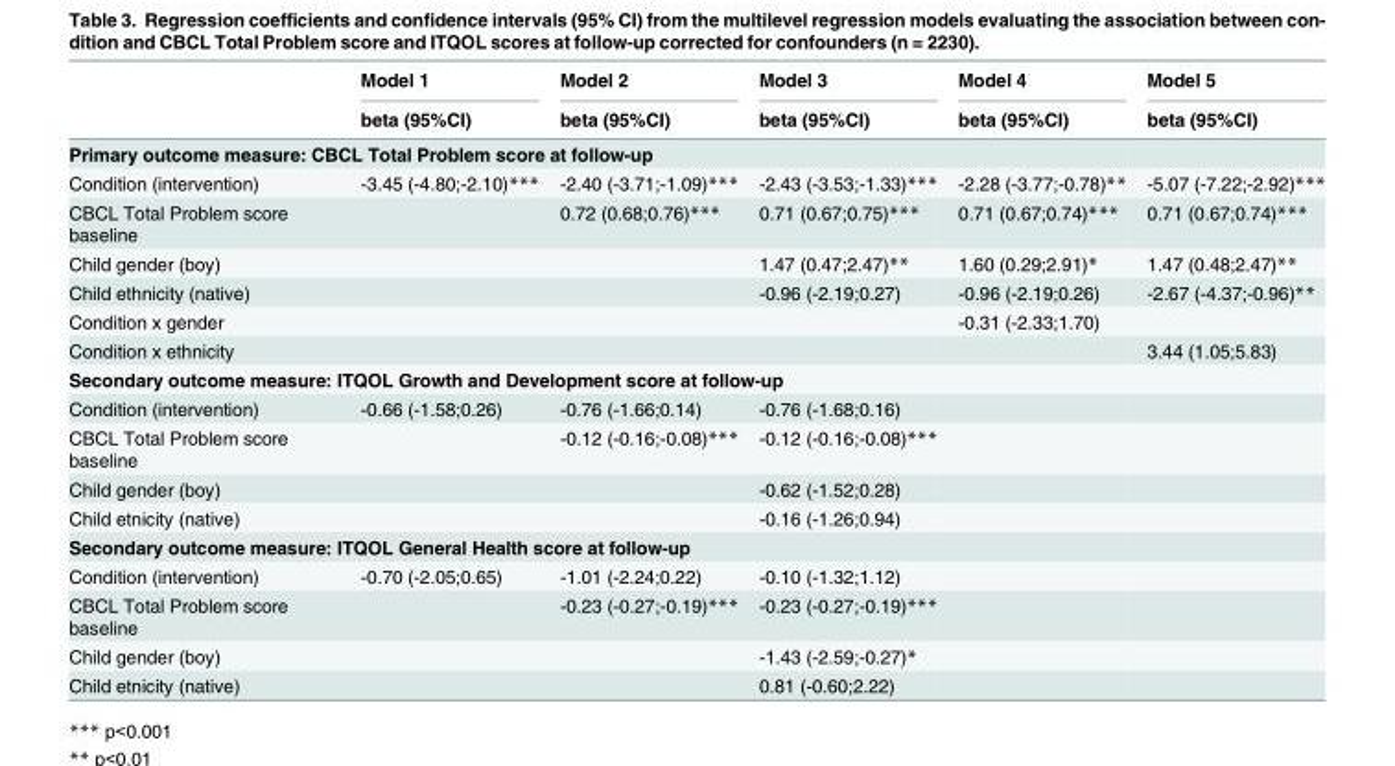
<table><thead><tr><td rowspan="2"></td><td rowspan="2">Model 1 beta (95%CI)</td><td rowspan="2">Model 2 beta (95%CI)</td><td rowspan="2">Model 3 beta (95%CI)</td><td rowspan="2">Model 4 beta (95%CI)</td><td rowspan="2">Model 5 beta (95%CI)</td></tr><tr></tr></thead><tbody><tr><td colspan="6">Primary outcome measure: CBCL Total Problem score at follow-up</td></tr><tr><td>Condition (intervention)</td><td>-3.45 (-4.80;-2.10)***</td><td>-2.40 (-3.71;-1.09)***</td><td>-2.43 (-3.53;-1.33)***</td><td>-2.28 (-3.77;-0.78)**</td><td>-5.07 (-7.22;-2.92)***</td></tr><tr><td>CBCL Total Problem score baseline</td><td></td><td>0.72 (0.68;0.76)***</td><td>0.71 (0.67;0.75)***</td><td>0.71 (0.67;0.74)***</td><td>0.71 (0.67;0.74)***</td></tr><tr><td>Child gender (boy)</td><td></td><td></td><td>1.47 (0.47;2.47)**</td><td>1.60 (0.29;2.91)*</td><td>1.47 (0.48;2.47)**</td></tr><tr><td>Child ethnicity (native)</td><td></td><td></td><td>-0.96 (-2.19;0.27)</td><td>-0.96 (-2.19;0.26)</td><td>-2.67 (-4.37;-0.96)**</td></tr><tr><td>Condition x gender</td><td></td><td></td><td></td><td>-0.31 (-2.33;1.70)</td><td></td></tr><tr><td>Condition x ethnicity</td><td></td><td></td><td></td><td></td><td>3.44 (1.05;5.83)</td></tr><tr><td colspan="6">Secondary outcome measure: ITQOL Growth and Development score at follow-up</td></tr><tr><td>Condition (intervention)</td><td>-0.66 (-1.58;0.26)</td><td>-0.76 (-1.66;0.14)</td><td>-0.76 (-1.68;0.16)</td><td></td><td></td></tr><tr><td>CBCL Total Problem score baseline</td><td></td><td>-0.12 (-0.16;-0.08)***</td><td>-0.12 (-0.16;-0.08)***</td><td></td><td></td></tr><tr><td>Child gender (boy)</td><td></td><td></td><td>-0.62 (-1.52;0.28)</td><td></td><td></td></tr><tr><td>Child etnicity (native)</td><td></td><td></td><td>-0.16 (-1.26;0.94)</td><td></td><td></td></tr><tr><td colspan="6">Secondary outcome measure: ITQOL General Health score at follow-up</td></tr><tr><td>Condition (intervention)</td><td>-0.70 (-2.05;0.65)</td><td>-1.01 (-2.24;0.22)</td><td>-0.10 (-1.32;1.12)</td><td></td><td></td></tr><tr><td>CBCL Total Problem score baseline</td><td></td><td>-0.23 (-0.27;-0.19)***</td><td>-0.23 (-0.27;-0.19)***</td><td></td><td></td></tr><tr><td>Child gender (boy)</td><td></td><td></td><td>-1.43 (-2.59;-0.27)*</td><td></td><td></td></tr><tr><td>Child etnicity (native)</td><td></td><td></td><td>0.81 (-0.60;2.22)</td><td></td><td></td></tr></tbody></table>